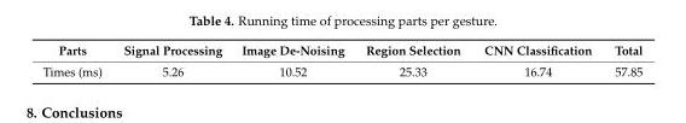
<table><thead><tr><td>Parts</td><td>Signal Processing</td><td>Image De-Noising</td><td>Region Selection</td><td>CNN Classification</td><td>Total</td></tr></thead><tbody><tr><td>Times (ms)</td><td>5.26</td><td>10.52</td><td>25.33</td><td>16.74</td><td>57.85</td></tr></tbody></table>